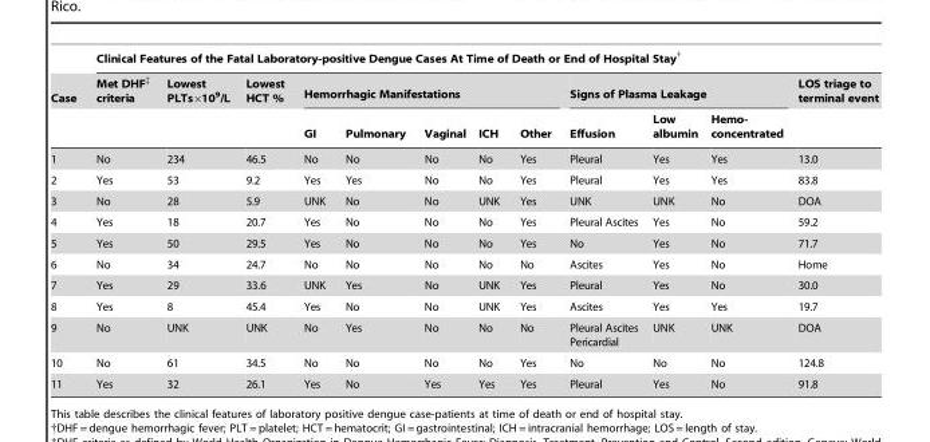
<table><thead><tr><td rowspan="3">Case</td><td colspan="12">Clinical Features of the Fatal Laboratory-positive Dengue Cases At Time of Death or End of Hospital Stay†</td></tr><tr><td rowspan="2">Met DHF‡ criteria</td><td rowspan="2">Lowest PLTs×10<sup>9</sup>/L</td><td rowspan="2">Lowest HCT %</td><td colspan="5">Hemorrhagic Manifestations</td><td colspan="3">Signs of Plasma Leakage</td><td rowspan="2">LOS triage to terminal event</td></tr><tr><td>GI</td><td>Pulmonary</td><td>Vaginal</td><td>ICH</td><td>Other</td><td>Effusion</td><td>Low albumin</td><td>Hemo- concentrated</td></tr></thead><tbody><tr><td>1</td><td>No</td><td>234</td><td>46.5</td><td>No</td><td>No</td><td>No</td><td>No</td><td>Yes</td><td>Pleural</td><td>Yes</td><td>Yes</td><td>13.0</td></tr><tr><td>2</td><td>Yes</td><td>53</td><td>9.2</td><td>Yes</td><td>Yes</td><td>No</td><td>No</td><td>Yes</td><td>Pleural</td><td>Yes</td><td>Yes</td><td>83.8</td></tr><tr><td>3</td><td>No</td><td>28</td><td>5.9</td><td>UNK</td><td>No</td><td>No</td><td>UNK</td><td>Yes</td><td>UNK</td><td>UNK</td><td>No</td><td>DOA</td></tr><tr><td>4</td><td>Yes</td><td>18</td><td>20.7</td><td>Yes</td><td>No</td><td>No</td><td>No</td><td>Yes</td><td>Pleural Ascites</td><td>Yes</td><td>No</td><td>59.2</td></tr><tr><td>5</td><td>Yes</td><td>50</td><td>29.5</td><td>Yes</td><td>No</td><td>No</td><td>No</td><td>Yes</td><td>No</td><td>Yes</td><td>No</td><td>71.7</td></tr><tr><td>6</td><td>No</td><td>34</td><td>24.7</td><td>No</td><td>No</td><td>No</td><td>No</td><td>No</td><td>Ascites</td><td>Yes</td><td>No</td><td>Home</td></tr><tr><td>7</td><td>Yes</td><td>29</td><td>33.6</td><td>UNK</td><td>Yes</td><td>No</td><td>UNK</td><td>Yes</td><td>Pleural</td><td>Yes</td><td>No</td><td>30.0</td></tr><tr><td>8</td><td>Yes</td><td>8</td><td>45.4</td><td>Yes</td><td>No</td><td>No</td><td>UNK</td><td>Yes</td><td>Ascites</td><td>Yes</td><td>Yes</td><td>19.7</td></tr><tr><td>9</td><td>No</td><td>UNK</td><td>UNK</td><td>No</td><td>Yes</td><td>No</td><td>No</td><td>No</td><td>Pleural Ascites Pericardial</td><td>UNK</td><td>UNK</td><td>DOA</td></tr><tr><td>10</td><td>No</td><td>61</td><td>34.5</td><td>No</td><td>No</td><td>No</td><td>No</td><td>Yes</td><td>No</td><td>No</td><td>No</td><td>124.8</td></tr><tr><td>11</td><td>Yes</td><td>32</td><td>26.1</td><td>Yes</td><td>No</td><td>Yes</td><td>Yes</td><td>Yes</td><td>Pleural</td><td>Yes</td><td>No</td><td>91.8</td></tr></tbody></table>